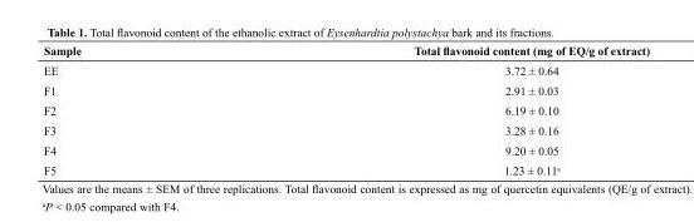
<table><thead><tr><td>Sample</td><td>Total flavonoid content (mg of EQ/g of extract)</td></tr></thead><tbody><tr><td>EE</td><td>3.72 ± 0.64</td></tr><tr><td>F1</td><td>2.91 ± 0.03</td></tr><tr><td>F2</td><td>6.19 ± 0.10</td></tr><tr><td>F3</td><td>3.28 ± 0.16</td></tr><tr><td>F4</td><td>9.20 ± 0.05</td></tr><tr><td>F5</td><td>1.23 ± 0.11<sup>a</sup></td></tr></tbody></table>